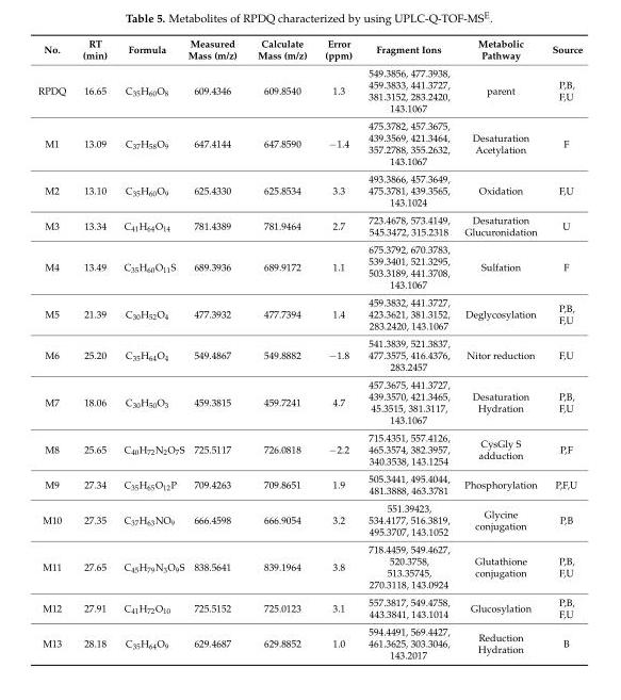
<table><thead><tr><td>No.</td><td>RT (min)</td><td>Formula</td><td>Measured Mass (m/z)</td><td>Calculate Mass (m/z)</td><td>Error (ppm)</td><td>Fragment Ions</td><td>Metabolic Pathway</td><td>Source</td></tr></thead><tbody><tr><td>RPDQ</td><td>16.65</td><td>C<sub>35</sub>H<sub>60</sub>O<sub>8</sub></td><td>609.4346</td><td>609.8540</td><td>1.3</td><td>549.3856, 477.3938, 459.3833, 441.3727, 381.3152, 283.2420, 143.1067</td><td>parent</td><td>P,B, F,U</td></tr><tr><td>M1</td><td>13.09</td><td>C<sub>37</sub>H<sub>58</sub>O<sub>9</sub></td><td>647.4144</td><td>647.8590</td><td>−1.4</td><td>475.3782, 457.3675, 439.3569, 421.3464, 357.2788, 355.2632, 143.1067</td><td>Desaturation Acetylation</td><td>F</td></tr><tr><td>M2</td><td>13.10</td><td>C<sub>35</sub>H<sub>60</sub>O<sub>9</sub></td><td>625.4330</td><td>625.8534</td><td>3.3</td><td>493.3866, 457.3649, 475.3781, 439.3565, 143.1024</td><td>Oxidation</td><td>F,U</td></tr><tr><td>M3</td><td>13.34</td><td>C<sub>41</sub>H<sub>64</sub>O<sub>14</sub></td><td>781.4389</td><td>781.9464</td><td>2.7</td><td>723.4678, 573.4149, 545.3472, 315.2318</td><td>Desaturation Glucuronidation</td><td>U</td></tr><tr><td>M4</td><td>13.49</td><td>C<sub>35</sub>H<sub>60</sub>O<sub>11</sub>S</td><td>689.3936</td><td>689.9172</td><td>1.1</td><td>675.3792, 670.3783, 539.3401, 521.3295, 503.3189, 441.3708, 143.1067</td><td>Sulfation</td><td>F</td></tr><tr><td>M5</td><td>21.39</td><td>C<sub>30</sub>H<sub>52</sub>O<sub>4</sub></td><td>477.3932</td><td>477.7394</td><td>1.4</td><td>459.3832, 441.3727, 423.3621, 381.3152, 283.2420, 143.1067</td><td>Deglycosylation</td><td>P,B, F,U</td></tr><tr><td>M6</td><td>25.20</td><td>C<sub>35</sub>H<sub>64</sub>O<sub>4</sub></td><td>549.4867</td><td>549.8882</td><td>−1.8</td><td>541.3839, 521.3837, 477.3575, 416.4376, 283.2457</td><td>Nitor reduction</td><td>F,U</td></tr><tr><td>M7</td><td>18.06</td><td>C<sub>30</sub>H<sub>50</sub>O<sub>3</sub></td><td>459.3815</td><td>459.7241</td><td>4.7</td><td>457.3675, 441.3727, 439.3570, 421.3465, 45.3515, 381.3117, 143.1067</td><td>Desaturation Hydration</td><td>P,B, F,U</td></tr><tr><td>M8</td><td>25.65</td><td>C<sub>40</sub>H<sub>72</sub>N<sub>2</sub>O<sub>7</sub>S</td><td>725.5117</td><td>726.0818</td><td>−2.2</td><td>715.4351, 557.4126, 465.3574, 382.3957, 340.3538, 143.1254</td><td>CysGly S adduction</td><td>P,F</td></tr><tr><td>M9</td><td>27.34</td><td>C<sub>35</sub>H<sub>65</sub>O<sub>12</sub>P</td><td>709.4263</td><td>709.8651</td><td>1.9</td><td>505.3441, 495.4044, 481.3888, 463.3781</td><td>Phosphorylation</td><td>P,F,U</td></tr><tr><td>M10</td><td>27.35</td><td>C<sub>37</sub>H<sub>63</sub>NO<sub>9</sub></td><td>666.4598</td><td>666.9054</td><td>3.2</td><td>551.39423, 534.4177, 516.3819, 495.3707, 143.1052</td><td>Glycine conjugation</td><td>P,B</td></tr><tr><td>M11</td><td>27.65</td><td>C<sub>45</sub>H<sub>79</sub>N<sub>3</sub>O<sub>9</sub>S</td><td>838.5641</td><td>839.1964</td><td>3.8</td><td>718.4459, 549.4627, 520.3758, 513.35745, 270.3118, 143.0924</td><td>Glutathione conjugation</td><td>P,B, F,U</td></tr><tr><td>M12</td><td>27.91</td><td>C<sub>41</sub>H<sub>72</sub>O<sub>10</sub></td><td>725.5152</td><td>725.0123</td><td>3.1</td><td>557.3817, 549.4758, 443.3841, 143.1014</td><td>Glucosylation</td><td>P,B, F,U</td></tr><tr><td>M13</td><td>28.18</td><td>C<sub>35</sub>H<sub>64</sub>O<sub>9</sub></td><td>629.4687</td><td>629.8852</td><td>1.0</td><td>594.4491, 569.4427, 461.3625, 303.3046, 143.2017</td><td>Reduction Hydration</td><td>B</td></tr></tbody></table>